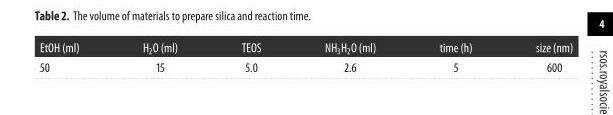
<table><thead><tr><td>EtOH (ml)</td><td>H<sub>2</sub>O (ml)</td><td>TEOS</td><td>NH<sub>3</sub>H<sub>2</sub>O (ml)</td><td>time (h)</td><td>size (nm)</td></tr></thead><tbody><tr><td>50</td><td>15</td><td>5.0</td><td>2.6</td><td>5</td><td>600</td></tr></tbody></table>